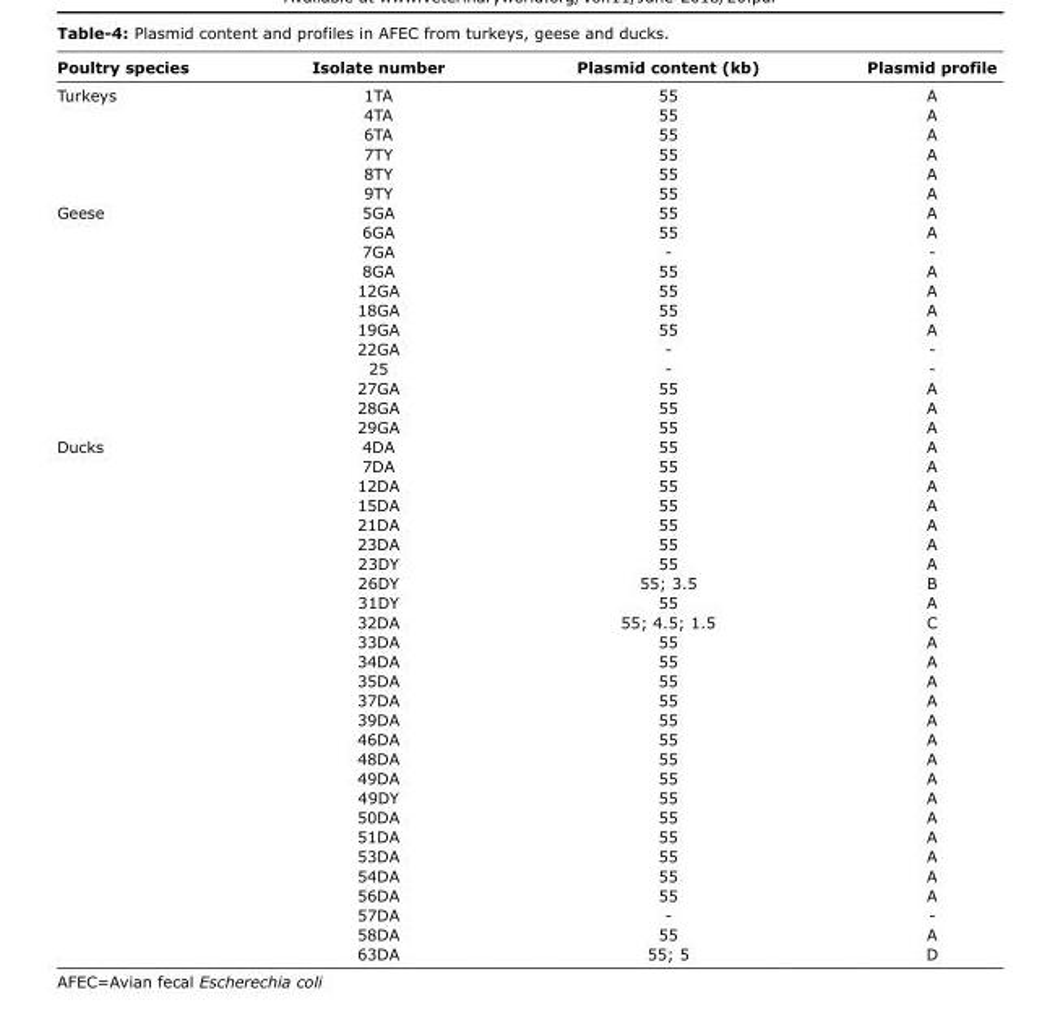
<table><thead><tr><td>Poultry species</td><td>Isolate number</td><td>Plasmid content (kb)</td><td>Plasmid profile</td></tr></thead><tbody><tr><td rowspan="6">Turkeys</td><td>1TA</td><td>55</td><td>A</td></tr><tr><td>4TA</td><td>55</td><td>A</td></tr><tr><td>6TA</td><td>55</td><td>A</td></tr><tr><td>7TY</td><td>55</td><td>A</td></tr><tr><td>8TY</td><td>55</td><td>A</td></tr><tr><td>9TY</td><td>55</td><td>A</td></tr><tr><td rowspan="12">Geese</td><td>5GA</td><td>55</td><td>A</td></tr><tr><td>6GA</td><td>55</td><td>A</td></tr><tr><td>7GA</td><td>-</td><td>-</td></tr><tr><td>8GA</td><td>55</td><td>A</td></tr><tr><td>12GA</td><td>55</td><td>A</td></tr><tr><td>18GA</td><td>55</td><td>A</td></tr><tr><td>19GA</td><td>55</td><td>A</td></tr><tr><td>22GA</td><td>-</td><td>-</td></tr><tr><td>25</td><td>-</td><td>-</td></tr><tr><td>27GA</td><td>55</td><td>A</td></tr><tr><td>28GA</td><td>55</td><td>A</td></tr><tr><td>29GA</td><td>55</td><td>A</td></tr><tr><td rowspan="27">Ducks</td><td>4DA</td><td>55</td><td>A</td></tr><tr><td>7DA</td><td>55</td><td>A</td></tr><tr><td>12DA</td><td>55</td><td>A</td></tr><tr><td>15DA</td><td>55</td><td>A</td></tr><tr><td>21DA</td><td>55</td><td>A</td></tr><tr><td>23DA</td><td>55</td><td>A</td></tr><tr><td>23DY</td><td>55</td><td>A</td></tr><tr><td>26DY</td><td>55; 3.5</td><td>B</td></tr><tr><td>31DY</td><td>55</td><td>A</td></tr><tr><td>32DA</td><td>55; 4.5; 1.5</td><td>C</td></tr><tr><td>33DA</td><td>55</td><td>A</td></tr><tr><td>34DA</td><td>55</td><td>A</td></tr><tr><td>35DA</td><td>55</td><td>A</td></tr><tr><td>37DA</td><td>55</td><td>A</td></tr><tr><td>39DA</td><td>55</td><td>A</td></tr><tr><td>46DA</td><td>55</td><td>A</td></tr><tr><td>48DA</td><td>55</td><td>A</td></tr><tr><td>49DA</td><td>55</td><td>A</td></tr><tr><td>49DY</td><td>55</td><td>A</td></tr><tr><td>50DA</td><td>55</td><td>A</td></tr><tr><td>51DA</td><td>55</td><td>A</td></tr><tr><td>53DA</td><td>55</td><td>A</td></tr><tr><td>54DA</td><td>55</td><td>A</td></tr><tr><td>56DA</td><td>55</td><td>A</td></tr><tr><td>57DA</td><td>-</td><td>-</td></tr><tr><td>58DA</td><td>55</td><td>A</td></tr><tr><td>63DA</td><td>55; 5</td><td>D</td></tr></tbody></table>